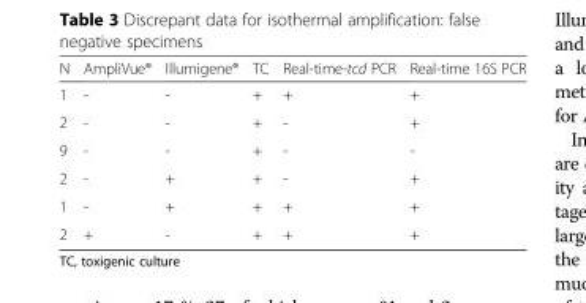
<table><thead><tr><td>N</td><td>AmpliVue®</td><td>Illumigene®</td><td>TC</td><td>Real-time-tcd PCR</td><td>Real-time 16S PCR</td></tr></thead><tbody><tr><td>1</td><td>-</td><td>-</td><td>+</td><td>+</td><td>+</td></tr><tr><td>2</td><td>-</td><td>-</td><td>+</td><td>-</td><td>+</td></tr><tr><td>9</td><td>-</td><td>-</td><td>+</td><td>-</td><td>-</td></tr><tr><td>2</td><td>-</td><td>+</td><td>+</td><td>-</td><td>+</td></tr><tr><td>1</td><td>-</td><td>+</td><td>+</td><td>+</td><td>+</td></tr><tr><td>2</td><td>+</td><td>-</td><td>+</td><td>+</td><td>+</td></tr></tbody></table>